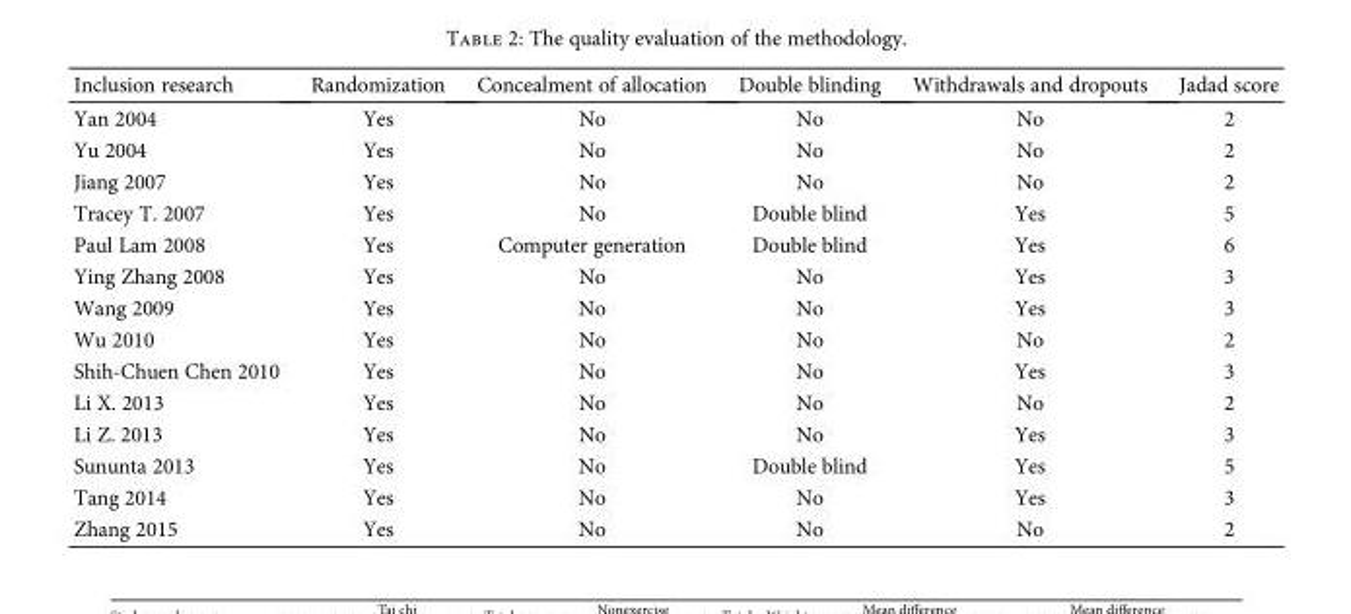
<table><thead><tr><td>Inclusion research</td><td>Randomization</td><td>Concealment of allocation</td><td>Double blinding</td><td>Withdrawals and dropouts</td><td>Jadad score</td></tr></thead><tbody><tr><td>Yan 2004</td><td>Yes</td><td>No</td><td>No</td><td>No</td><td>2</td></tr><tr><td>Yu 2004</td><td>Yes</td><td>No</td><td>No</td><td>No</td><td>2</td></tr><tr><td>Jiang 2007</td><td>Yes</td><td>No</td><td>No</td><td>No</td><td>2</td></tr><tr><td>Tracey T. 2007</td><td>Yes</td><td>No</td><td>Double blind</td><td>Yes</td><td>5</td></tr><tr><td>Paul Lam 2008</td><td>Yes</td><td>Computer generation</td><td>Double blind</td><td>Yes</td><td>6</td></tr><tr><td>Ying Zhang 2008</td><td>Yes</td><td>No</td><td>No</td><td>Yes</td><td>3</td></tr><tr><td>Wang 2009</td><td>Yes</td><td>No</td><td>No</td><td>Yes</td><td>3</td></tr><tr><td>Wu 2010</td><td>Yes</td><td>No</td><td>No</td><td>No</td><td>2</td></tr><tr><td>Shih-Chuen Chen 2010</td><td>Yes</td><td>No</td><td>No</td><td>Yes</td><td>3</td></tr><tr><td>Li X. 2013</td><td>Yes</td><td>No</td><td>No</td><td>No</td><td>2</td></tr><tr><td>Li Z. 2013</td><td>Yes</td><td>No</td><td>No</td><td>Yes</td><td>3</td></tr><tr><td>Sununta 2013</td><td>Yes</td><td>No</td><td>Double blind</td><td>Yes</td><td>5</td></tr><tr><td>Tang 2014</td><td>Yes</td><td>No</td><td>No</td><td>Yes</td><td>3</td></tr><tr><td>Zhang 2015</td><td>Yes</td><td>No</td><td>No</td><td>No</td><td>2</td></tr></tbody></table>